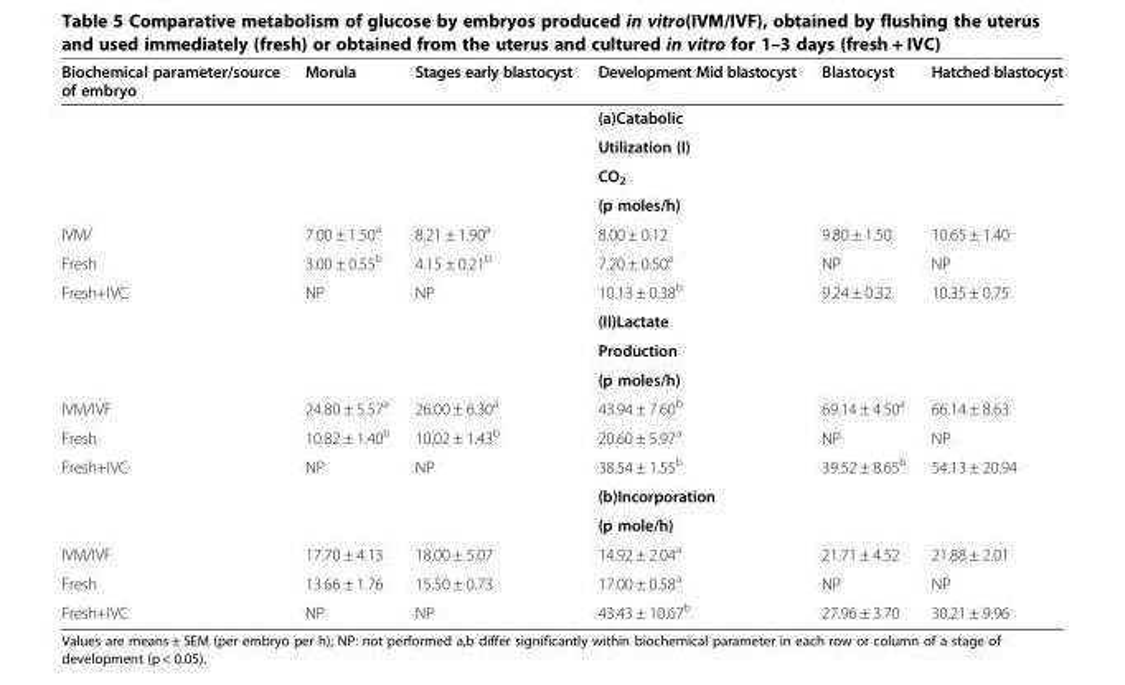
<table><thead><tr><td>Biochemical parameter/source of embryo</td><td>Morula</td><td>Stages early blastocyst</td><td>Development Mid blastocyst</td><td>Blastocyst</td><td>Hatched blastocyst</td></tr></thead><tbody><tr><td></td><td></td><td></td><td>(a)Catabolic</td><td></td><td></td></tr><tr><td></td><td></td><td></td><td>Utilization (Ι)</td><td></td><td></td></tr><tr><td></td><td></td><td></td><td>CO<sub>2</sub></td><td></td><td></td></tr><tr><td></td><td></td><td></td><td>(p moles/h)</td><td></td><td></td></tr><tr><td>IVM/</td><td>7.00 ± 1.50<sup>a</sup></td><td>8.21 ± 1.90<sup>a</sup></td><td>8.00 ± 0.12</td><td>9.80 ± 1.50</td><td>10.65 ± 1.40</td></tr><tr><td>Fresh</td><td>3.00 ± 0.55<sup>b</sup></td><td>4.15 ± 0.21<sup>b</sup></td><td>7.20 ± 0.50<sup>a</sup></td><td>NP</td><td>NP</td></tr><tr><td rowspan="4">Fresh+IVC</td><td>NP</td><td>NP</td><td>10.13 ± 0.38<sup>b</sup></td><td>9.24 ± 0.32</td><td>10.35 ± 0.75</td></tr><tr><td></td><td></td><td>(ΙΙ)Lactate</td><td></td><td></td></tr><tr><td></td><td></td><td>Production</td><td></td><td></td></tr><tr><td></td><td></td><td>(p moles/h)</td><td></td><td></td></tr><tr><td>IVM/IVF</td><td>24.80 ± 5.57<sup>a</sup></td><td>26.00 ± 6.30<sup>a</sup></td><td>43.94 ± 7.60<sup>b</sup></td><td>69.14 ± 4.50<sup>a</sup></td><td>66.14 ± 8.63</td></tr><tr><td>Fresh</td><td>10.82 ± 1.40<sup>b</sup></td><td>10.02 ± 1.43<sup>b</sup></td><td>20.60 ± 5.97<sup>a</sup></td><td>NP</td><td>NP</td></tr><tr><td rowspan="3">Fresh+IVC</td><td>NP</td><td>NP</td><td>38.54 ± 1.55<sup>b</sup></td><td>39.52 ± 8.65<sup>b</sup></td><td>54.13 ± 20.94</td></tr><tr><td></td><td></td><td>(b)Incorporation</td><td></td><td></td></tr><tr><td></td><td></td><td>(p mole/h)</td><td></td><td></td></tr><tr><td>IVM/IVF</td><td>17.70 ± 4.13</td><td>18.00 ± 5.07</td><td>14.92 ± 2.04<sup>a</sup></td><td>21.71 ± 4.52</td><td>21.88 ± 2.01</td></tr><tr><td>Fresh</td><td>13.66 ± 1.76</td><td>15.50 ± 0.73</td><td>17.00 ± 0.58<sup>a</sup></td><td>NP</td><td>NP</td></tr><tr><td>Fresh+IVC</td><td>NP</td><td>NP</td><td>43.43 ± 10.67<sup>b</sup></td><td>27.96 ± 3.70</td><td>30.21 ± 9.96</td></tr></tbody></table>